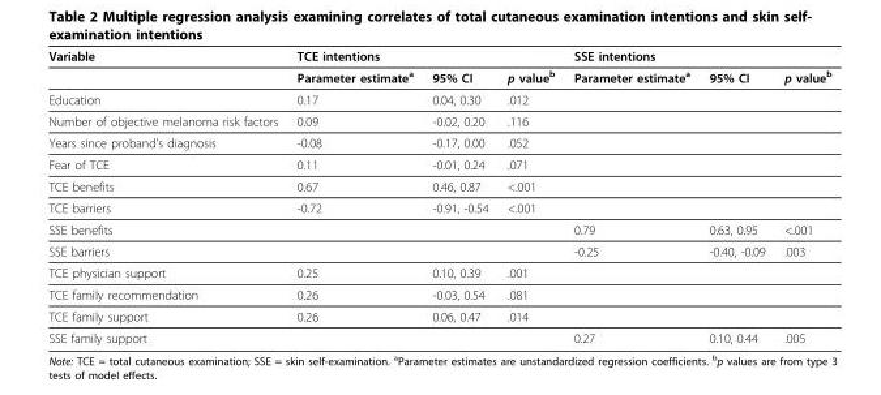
<table><thead><tr><td rowspan="2">Variable</td><td colspan="3">TCE intentions</td><td colspan="3">SSE intentions</td></tr><tr><td>Parameter estimate<sup>a</sup></td><td>95% CI</td><td>p value<sup>b</sup></td><td>Parameter estimate<sup>a</sup></td><td>95% CI</td><td>p value<sup>b</sup></td></tr></thead><tbody><tr><td>Education</td><td>0.17</td><td>0.04, 0.30</td><td>.012</td><td></td><td></td><td></td></tr><tr><td>Number of objective melanoma risk factors</td><td>0.09</td><td>-0.02, 0.20</td><td>.116</td><td></td><td></td><td></td></tr><tr><td>Years since proband’s diagnosis</td><td>-0.08</td><td>-0.17, 0.00</td><td>.052</td><td></td><td></td><td></td></tr><tr><td>Fear of TCE</td><td>0.11</td><td>-0.01, 0.24</td><td>.071</td><td></td><td></td><td></td></tr><tr><td>TCE benefits</td><td>0.67</td><td>0.46, 0.87</td><td>&lt;.001</td><td></td><td></td><td></td></tr><tr><td>TCE barriers</td><td>-0.72</td><td>-0.91, -0.54</td><td>&lt;.001</td><td></td><td></td><td></td></tr><tr><td>SSE benefits</td><td></td><td></td><td></td><td>0.79</td><td>0.63, 0.95</td><td>&lt;.001</td></tr><tr><td>SSE barriers</td><td></td><td></td><td></td><td>-0.25</td><td>-0.40, -0.09</td><td>.003</td></tr><tr><td>TCE physician support</td><td>0.25</td><td>0.10, 0.39</td><td>.001</td><td></td><td></td><td></td></tr><tr><td>TCE family recommendation</td><td>0.26</td><td>-0.03, 0.54</td><td>.081</td><td></td><td></td><td></td></tr><tr><td>TCE family support</td><td>0.26</td><td>0.06, 0.47</td><td>.014</td><td></td><td></td><td></td></tr><tr><td>SSE family support</td><td></td><td></td><td></td><td>0.27</td><td>0.10, 0.44</td><td>.005</td></tr></tbody></table>